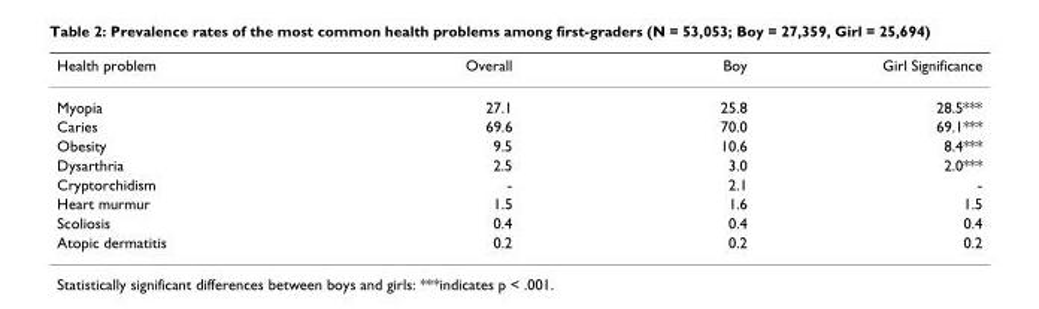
<table><thead><tr><td>Health problem</td><td>Overall</td><td>Boy</td><td>Girl Significance</td></tr></thead><tbody><tr><td>Myopia</td><td>27.1</td><td>25.8</td><td>28.5***</td></tr><tr><td>Caries</td><td>69.6</td><td>70.0</td><td>69.1***</td></tr><tr><td>Obesity</td><td>9.5</td><td>10.6</td><td>8.4***</td></tr><tr><td>Dysarthria</td><td>2.5</td><td>3.0</td><td>2.0***</td></tr><tr><td>Cryptorchidism</td><td>-</td><td>2.1</td><td>-</td></tr><tr><td>Heart murmur</td><td>1.5</td><td>1.6</td><td>1.5</td></tr><tr><td>Scoliosis</td><td>0.4</td><td>0.4</td><td>0.4</td></tr><tr><td>Atopic dermatitis</td><td>0.2</td><td>0.2</td><td>0.2</td></tr></tbody></table>